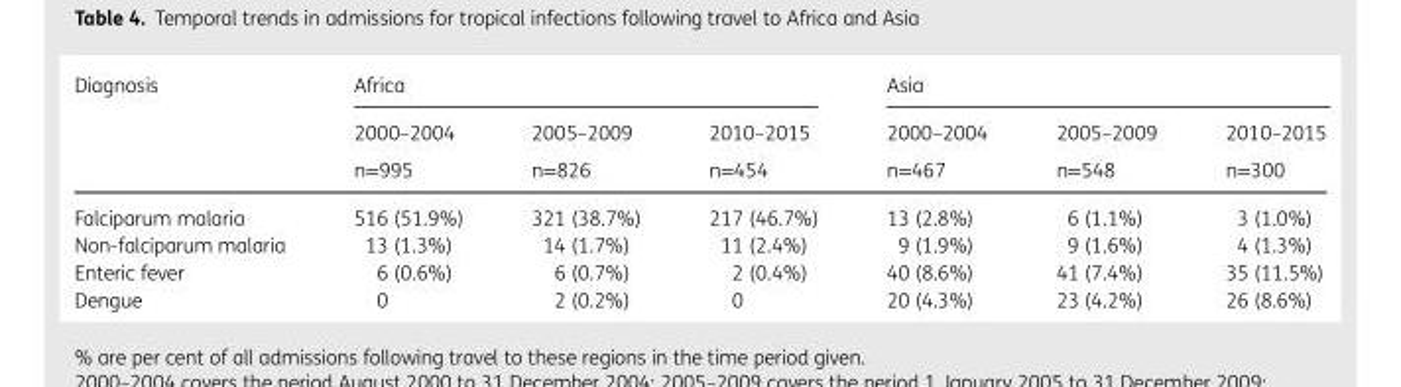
<table><thead><tr><td rowspan="3">Diagnosis</td><td colspan="3">Africa</td><td colspan="3">Asia</td></tr><tr><td rowspan="2">2000–2004 n=995</td><td rowspan="2">2005–2009 n=826</td><td rowspan="2">2010–2015 n=454</td><td rowspan="2">2000–2004 n=467</td><td rowspan="2">2005–2009 n=548</td><td rowspan="2">2010–2015 n=300</td></tr><tr></tr></thead><tbody><tr><td>Falciparum malaria</td><td>516 (51.9%)</td><td>321 (38.7%)</td><td>217 (46.7%)</td><td>13 (2.8%)</td><td>6 (1.1%)</td><td>3 (1.0%)</td></tr><tr><td>Non-falciparum malaria</td><td>13 (1.3%)</td><td>14 (1.7%)</td><td>11 (2.4%)</td><td>9 (1.9%)</td><td>9 (1.6%)</td><td>4 (1.3%)</td></tr><tr><td>Enteric fever</td><td>6 (0.6%)</td><td>6 (0.7%)</td><td>2 (0.4%)</td><td>40 (8.6%)</td><td>41 (7.4%)</td><td>35 (11.5%)</td></tr><tr><td>Dengue</td><td>0</td><td>2 (0.2%)</td><td>0</td><td>20 (4.3%)</td><td>23 (4.2%)</td><td>26 (8.6%)</td></tr></tbody></table>